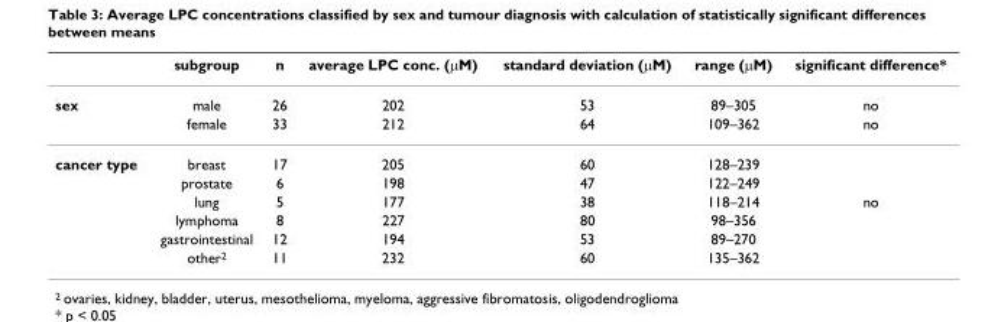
<table><thead><tr><td></td><td>subgroup</td><td>n</td><td>average LPC conc. (μM)</td><td>standard deviation (μM)</td><td>range (μM)</td><td>significant difference*</td></tr></thead><tbody><tr><td rowspan="2">sex</td><td>male</td><td>26</td><td>202</td><td>53</td><td>89–305</td><td>no</td></tr><tr><td>female</td><td>33</td><td>212</td><td>64</td><td>109–362</td><td>no</td></tr><tr><td rowspan="6">cancer type</td><td>breast</td><td>17</td><td>205</td><td>60</td><td>128–239</td><td></td></tr><tr><td>prostate</td><td>6</td><td>198</td><td>47</td><td>122–249</td><td></td></tr><tr><td>lung</td><td>5</td><td>177</td><td>38</td><td>118–214</td><td>no</td></tr><tr><td>lymphoma</td><td>8</td><td>227</td><td>80</td><td>98–356</td><td></td></tr><tr><td>gastrointestinal</td><td>12</td><td>194</td><td>53</td><td>89–270</td><td></td></tr><tr><td>other<sup>2</sup></td><td>11</td><td>232</td><td>60</td><td>135–362</td><td></td></tr></tbody></table>